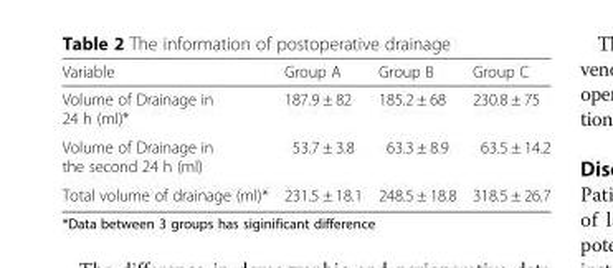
<table><thead><tr><td>Variable</td><td>Group A</td><td>Group B</td><td>Group C</td></tr></thead><tbody><tr><td>Volume of Drainage in 24 h (ml)*</td><td>187.9 ± 82</td><td>185.2 ± 68</td><td>230.8 ± 75</td></tr><tr><td>Volume of Drainage in the second 24 h (ml)</td><td>53.7 ± 3.8</td><td>63.3 ± 8.9</td><td>63.5 ± 14.2</td></tr><tr><td>Total volume of drainage (ml)*</td><td>231.5 ± 18.1</td><td>248.5 ± 18.8</td><td>318.5 ± 26.7</td></tr></tbody></table>